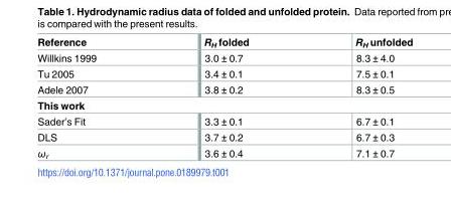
<table><thead><tr><td>Reference</td><td>R<sub>H</sub> folded</td><td>R<sub>H</sub> unfolded</td></tr></thead><tbody><tr><td>Willkins 1999</td><td>3.0 ± 0.7</td><td>8.3 ± 4.0</td></tr><tr><td>Tu 2005</td><td>3.4 ± 0.1</td><td>7.5 ± 0.1</td></tr><tr><td>Adele 2007</td><td>3.8 ± 0.2</td><td>8.3 ± 0.5</td></tr><tr><td colspan="3">This work</td></tr><tr><td>Sader’s Fit</td><td>3.3 ± 0.1</td><td>6.7 ± 0.1</td></tr><tr><td>DLS</td><td>3.7 ± 0.2</td><td>6.7 ± 0.3</td></tr><tr><td>ω<sub>r</sub></td><td>3.6 ± 0.4</td><td>7.1 ± 0.7</td></tr></tbody></table>